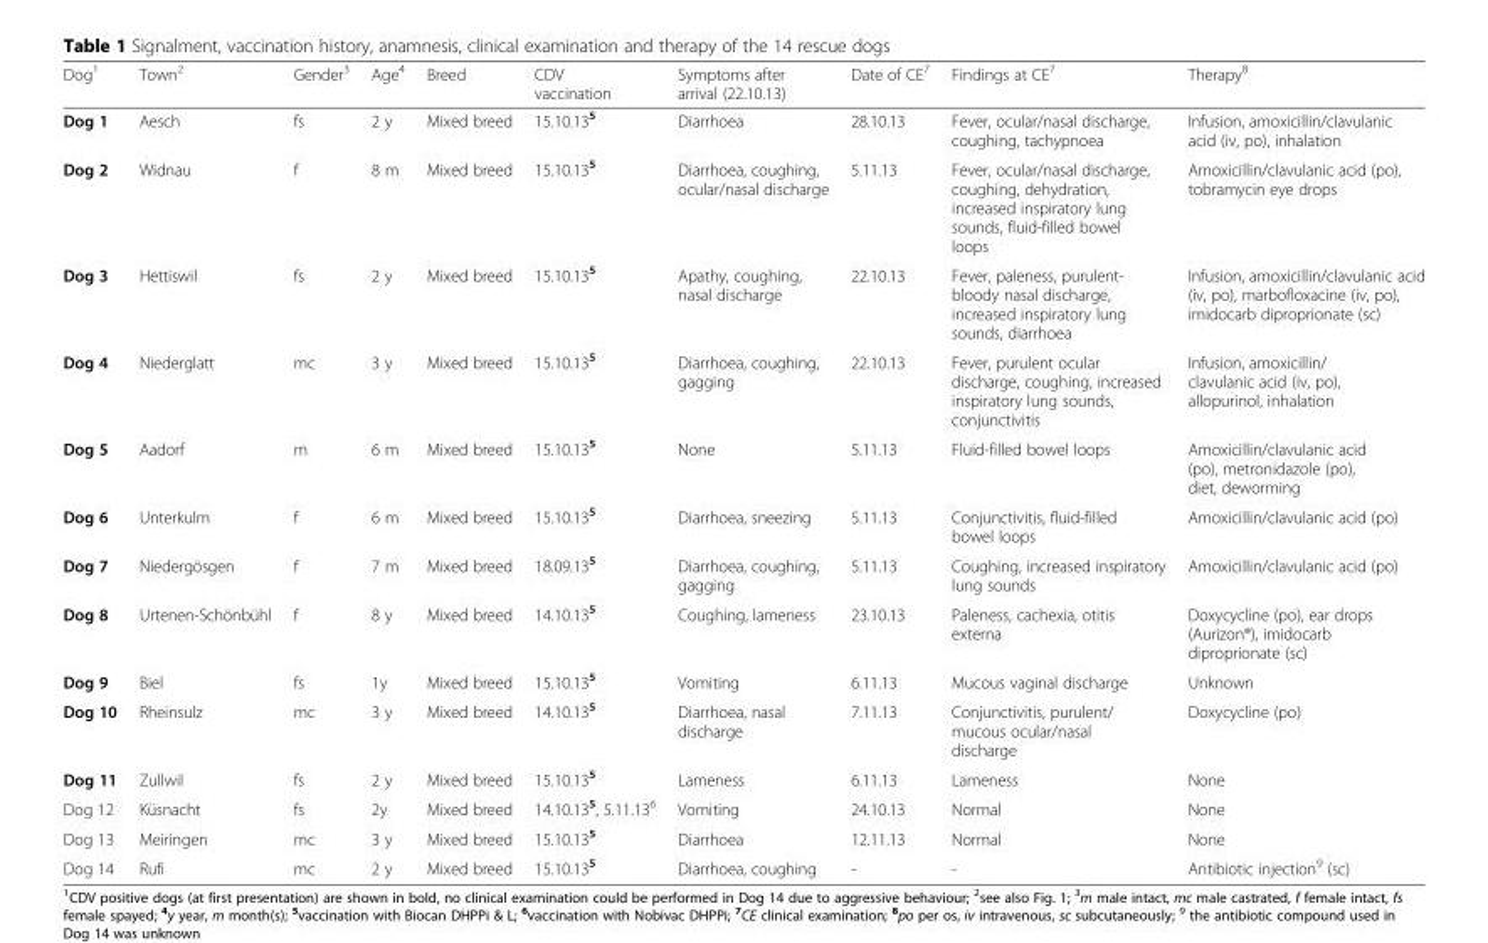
<table><thead><tr><td>Dog<sup>1</sup></td><td>Town<sup>2</sup></td><td>Gender<sup>3</sup></td><td>Age<sup>4</sup></td><td>Breed</td><td>CDV vaccination</td><td>Symptoms after arrival (22.10.13)</td><td>Date of CE<sup>7</sup></td><td>Findings at CE<sup>7</sup></td><td>Therapy<sup>8</sup></td></tr></thead><tbody><tr><td>Dog 1</td><td>Aesch</td><td>fs</td><td>2 y</td><td>Mixed breed</td><td>15.10.13<sup>5</sup></td><td>Diarrhoea</td><td>28.10.13</td><td>Fever, ocular/nasal discharge, coughing, tachypnoea</td><td>Infusion, amoxicillin/clavulanic acid (iv, po), inhalation</td></tr><tr><td>Dog 2</td><td>Widnau</td><td>f</td><td>8 m</td><td>Mixed breed</td><td>15.10.13<sup>5</sup></td><td>Diarrhoea, coughing, ocular/nasal discharge</td><td>5.11.13</td><td>Fever, ocular/nasal discharge, coughing, dehydration, increased inspiratory lung sounds, fluid-filled bowel loops</td><td>Amoxicillin/clavulanic acid (po), tobramycin eye drops</td></tr><tr><td>Dog 3</td><td>Hettiswil</td><td>fs</td><td>2 y</td><td>Mixed breed</td><td>15.10.13<sup>5</sup></td><td>Apathy, coughing, nasal discharge</td><td>22.10.13</td><td>Fever, paleness, purulent- bloody nasal discharge, increased inspiratory lung sounds, diarrhoea</td><td>Infusion, amoxicillin/clavulanic acid (iv, po), marbofloxacine (iv, po), imidocarb diproprionate (sc)</td></tr><tr><td>Dog 4</td><td>Niederglatt</td><td>mc</td><td>3 y</td><td>Mixed breed</td><td>15.10.13<sup>5</sup></td><td>Diarrhoea, coughing, gagging</td><td>22.10.13</td><td>Fever, purulent ocular discharge, coughing, increased inspiratory lung sounds, conjunctivitis</td><td>Infusion, amoxicillin/ clavulanic acid (iv, po), allopurinol, inhalation</td></tr><tr><td>Dog 5</td><td>Aadorf</td><td>m</td><td>6 m</td><td>Mixed breed</td><td>15.10.13<sup>5</sup></td><td>None</td><td>5.11.13</td><td>Fluid-filled bowel loops</td><td>Amoxicillin/clavulanic acid (po), metronidazole (po), diet, deworming</td></tr><tr><td>Dog 6</td><td>Unterkulm</td><td>f</td><td>6 m</td><td>Mixed breed</td><td>15.10.13<sup>5</sup></td><td>Diarrhoea, sneezing</td><td>5.11.13</td><td>Conjunctivitis, fluid-filled bowel loops</td><td>Amoxicillin/clavulanic acid (po)</td></tr><tr><td>Dog 7</td><td>Niedergösgen</td><td>f</td><td>7 m</td><td>Mixed breed</td><td>18.09.13<sup>5</sup></td><td>Diarrhoea, coughing, gagging</td><td>5.11.13</td><td>Coughing, increased inspiratory lung sounds</td><td>Amoxicillin/clavulanic acid (po)</td></tr><tr><td>Dog 8</td><td>Urtenen-Schönbühl</td><td>f</td><td>8 y</td><td>Mixed breed</td><td>14.10.13<sup>5</sup></td><td>Coughing, lameness</td><td>23.10.13</td><td>Paleness, cachexia, otitis externa</td><td>Doxycycline (po), ear drops (Aurizon®), imidocarb diproprionate (sc)</td></tr><tr><td>Dog 9</td><td>Biel</td><td>fs</td><td>1y</td><td>Mixed breed</td><td>15.10.13<sup>5</sup></td><td>Vomiting</td><td>6.11.13</td><td>Mucous vaginal discharge</td><td>Unknown</td></tr><tr><td>Dog 10</td><td>Rheinsulz</td><td>mc</td><td>3 y</td><td>Mixed breed</td><td>14.10.13<sup>5</sup></td><td>Diarrhoea, nasal discharge</td><td>7.11.13</td><td>Conjunctivitis, purulent/ mucous ocular/nasal discharge</td><td>Doxycycline (po)</td></tr><tr><td>Dog 11</td><td>Zullwil</td><td>fs</td><td>2 y</td><td>Mixed breed</td><td>15.10.13<sup>5</sup></td><td>Lameness</td><td>6.11.13</td><td>Lameness</td><td>None</td></tr><tr><td>Dog 12</td><td>Küsnacht</td><td>fs</td><td>2y</td><td>Mixed breed</td><td>14.10.13<sup>5</sup>, 5.11.13<sup>6</sup></td><td>Vomiting</td><td>24.10.13</td><td>Normal</td><td>None</td></tr><tr><td>Dog 13</td><td>Meiringen</td><td>mc</td><td>3 y</td><td>Mixed breed</td><td>15.10.13<sup>5</sup></td><td>Diarrhoea</td><td>12.11.13</td><td>Normal</td><td>None</td></tr><tr><td>Dog 14</td><td>Rufi</td><td>mc</td><td>2 y</td><td>Mixed breed</td><td>15.10.13<sup>5</sup></td><td>Diarrhoea, coughing</td><td>-</td><td>-</td><td>Antibiotic injection<sup>9</sup> (sc)</td></tr></tbody></table>